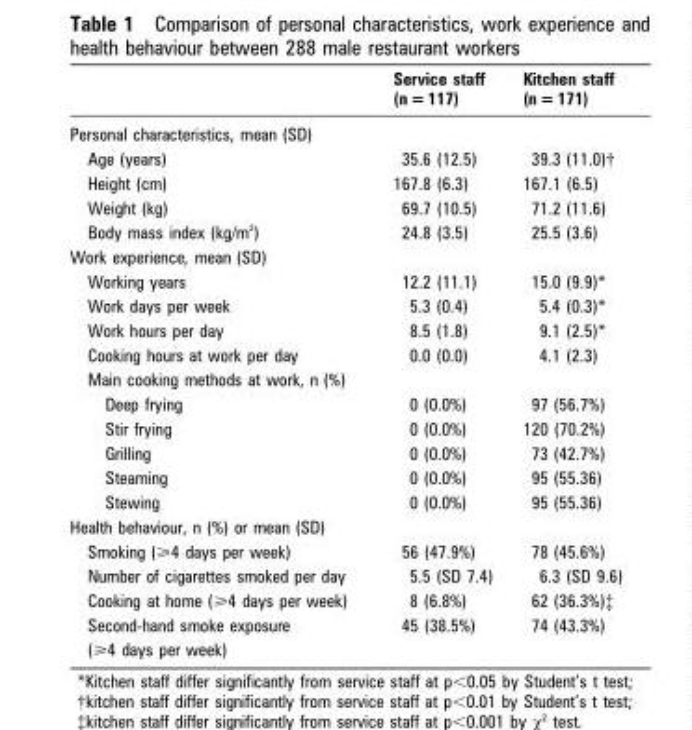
<table><thead><tr><td></td><td>Service staff (n = 117)</td><td>Kitchen staff (n = 171)</td></tr></thead><tbody><tr><td colspan="3">Personal characteristics, mean (SD)</td></tr><tr><td>Age (years)</td><td>35.6 (12.5)</td><td>39.3 (11.0)†</td></tr><tr><td>Height (cm)</td><td>167.8 (6.3)</td><td>167.1 (6.5)</td></tr><tr><td>Weight (kg)</td><td>69.7 (10.5)</td><td>71.2 (11.6)</td></tr><tr><td>Body mass index (kg/m <sup>2</sup>)</td><td>24.8 (3.5)</td><td>25.5 (3.6)</td></tr><tr><td colspan="3">Work experience, mean (SD)</td></tr><tr><td>Working years</td><td>12.2 (11.1)</td><td>15.0 (9.9)*</td></tr><tr><td>Work days per week</td><td>5.3 (0.4)</td><td>5.4 (0.3)*</td></tr><tr><td>Work hours per day</td><td>8.5 (1.8)</td><td>9.1 (2.5)*</td></tr><tr><td>Cooking hours at work per day</td><td>0.0 (0.0)</td><td>4.1 (2.3)</td></tr><tr><td colspan="3">Main cooking methods at work, n (%)</td></tr><tr><td>Deep frying</td><td>0 (0.0%)</td><td>97 (56.7%)</td></tr><tr><td>Stir frying</td><td>0 (0.0%)</td><td>120 (70.2%)</td></tr><tr><td>Grilling</td><td>0 (0.0%)</td><td>73 (42.7%)</td></tr><tr><td>Steaming</td><td>0 (0.0%)</td><td>95 (55.36)</td></tr><tr><td>Stewing</td><td>0 (0.0%)</td><td>95 (55.36)</td></tr><tr><td colspan="3">Health behaviour, n (%) or mean (SD)</td></tr><tr><td>Smoking (&gt;4 days per week)</td><td>56 (47.9%)</td><td>78 (45.6%)</td></tr><tr><td>Number of cigarettes smoked per day</td><td>5.5 (SD 7.4)</td><td>6.3 (SD 9.6)</td></tr><tr><td>Cooking at home (&gt;4 days per week)</td><td>8 (6.8%)</td><td>62 (36.3%)‡</td></tr><tr><td>Second-hand smoke exposure</td><td>45 (38.5%)</td><td>74 (43.3%)</td></tr><tr><td>(&gt;4 days per week)</td><td></td><td></td></tr></tbody></table>